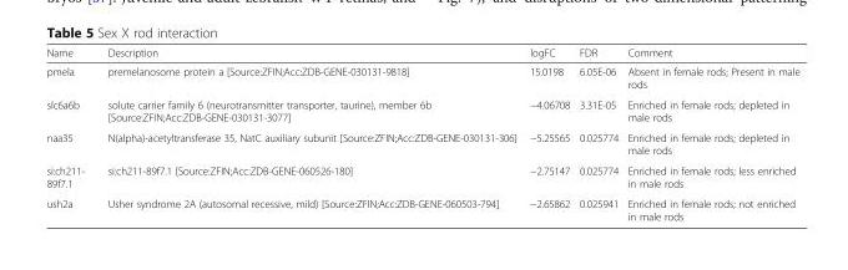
<table><thead><tr><td>Name</td><td>Description</td><td>logFC</td><td>FDR</td><td>Comment</td></tr></thead><tbody><tr><td>pmela</td><td>premelanosome protein a [Source:ZFIN;Acc:ZDB-GENE-030131-9818]</td><td>15.0198</td><td>6.05E-06</td><td>Absent in female rods; Present in male rods</td></tr><tr><td>slc6a6b</td><td>solute carrier family 6 (neurotransmitter transporter, taurine), member 6b [Source:ZFIN;Acc:ZDB-GENE-030131-3077]</td><td>−4.06708</td><td>3.31E-05</td><td>Enriched in female rods; depleted in male rods</td></tr><tr><td>naa35</td><td>N(alpha)-acetyltransferase 35, NatC auxiliary subunit [Source:ZFIN;Acc:ZDB-GENE-030131-306]</td><td>−5.25565</td><td>0.025774</td><td>Enriched in female rods; depleted in male rods</td></tr><tr><td>si:ch211- 89f7.1</td><td>si:ch211-89f7.1 [Source:ZFIN;Acc:ZDB-GENE-060526-180]</td><td>−2.75147</td><td>0.025774</td><td>Enriched in female rods; less enriched in male rods</td></tr><tr><td>ush2a</td><td>Usher syndrome 2A (autosomal recessive, mild) [Source:ZFIN;Acc:ZDB-GENE-060503-794]</td><td>−2.65862</td><td>0.025941</td><td>Enriched in female rods; not enriched in male rods</td></tr></tbody></table>